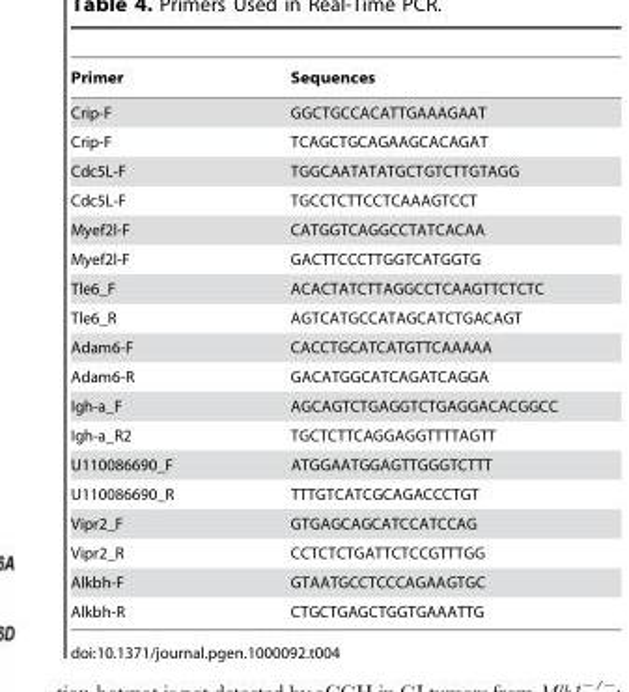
<table><thead><tr><td>Primer</td><td>Sequences</td></tr></thead><tbody><tr><td>Crip-F</td><td>GGCTGCCACATTGAAAGAAT</td></tr><tr><td>Crip-F</td><td>TCAGCTGCAGAAGCACAGAT</td></tr><tr><td>Cdc5L-F</td><td>TGGCAATATATGCTGTCTTGTAGG</td></tr><tr><td>Cdc5L-F</td><td>TGCCTCTTCCTCAAAGTCCT</td></tr><tr><td>Myef2l-F</td><td>CATGGTCAGGCCTATCACAA</td></tr><tr><td>Myef2l-F</td><td>GACTTCCCTTGGTCATGGTG</td></tr><tr><td>Tle6_F</td><td>ACACTATCTTAGGCCTCAAGTTCTCTC</td></tr><tr><td>Tle6_R</td><td>AGTCATGCCATAGCATCTGACAGT</td></tr><tr><td>Adam6-F</td><td>CACCTGCATCATGTTCAAAAA</td></tr><tr><td>Adam6-R</td><td>GACATGGCATCAGATCAGGA</td></tr><tr><td>Igh-a_F</td><td>AGCAGTCTGAGGTCTGAGGACACGGCC</td></tr><tr><td>Igh-a_R2</td><td>TGCTCTTCAGGAGGTTTTAGTT</td></tr><tr><td>U110086690_F</td><td>ATGGAATGGAGTTGGGTCTTT</td></tr><tr><td>U110086690_R</td><td>TTTGTCATCGCAGACCCTGT</td></tr><tr><td>Vipr2_F</td><td>GTGAGCAGCATCCATCCAG</td></tr><tr><td>Vipr2_R</td><td>CCTCTCTGATTCTCCGTTTGG</td></tr><tr><td>Alkbh-F</td><td>GTAATGCCTCCCAGAAGTGC</td></tr><tr><td>Alkbh-R</td><td>CTGCTGAGCTGGTGAAATTG</td></tr></tbody></table>